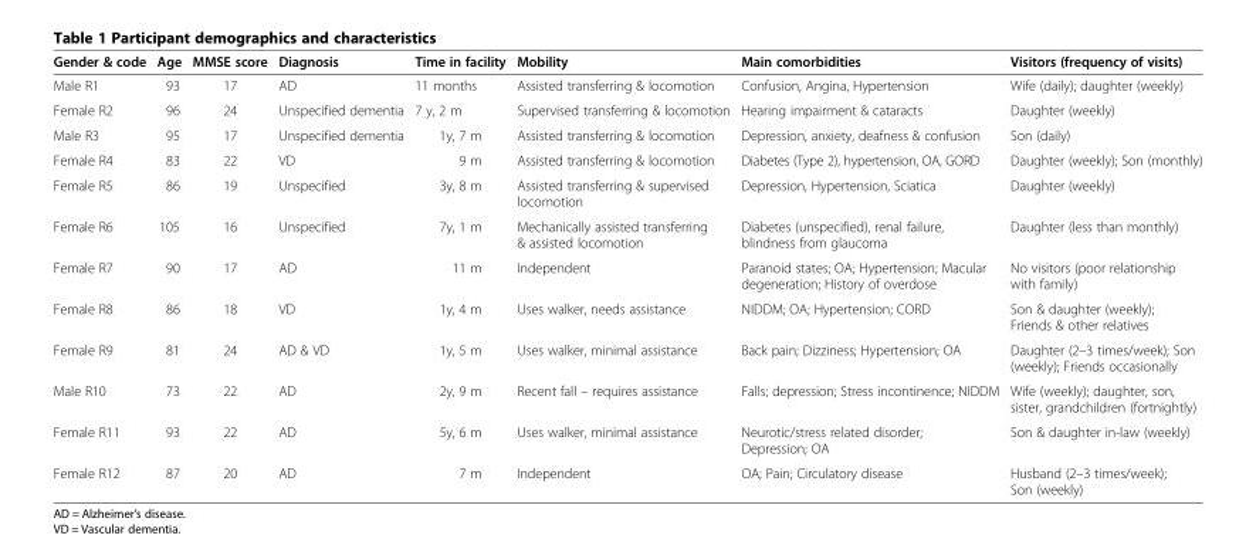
<table><thead><tr><td>Gender &amp; code</td><td>Age</td><td>MMSE score</td><td>Diagnosis</td><td>Time in facility</td><td>Mobility</td><td>Main comorbidities</td><td>Visitors (frequency of visits)</td></tr></thead><tbody><tr><td>Male R1</td><td>93</td><td>17</td><td>AD</td><td>11 months</td><td>Assisted transferring &amp; locomotion</td><td>Confusion, Angina, Hypertension</td><td>Wife (daily); daughter (weekly)</td></tr><tr><td>Female R2</td><td>96</td><td>24</td><td>Unspecified dementia</td><td>7 y, 2 m</td><td>Supervised transferring &amp; locomotion</td><td>Hearing impairment &amp; cataracts</td><td>Daughter (weekly)</td></tr><tr><td>Male R3</td><td>95</td><td>17</td><td>Unspecified dementia</td><td>1y, 7 m</td><td>Assisted transferring &amp; locomotion</td><td>Depression, anxiety, deafness &amp; confusion</td><td>Son (daily)</td></tr><tr><td>Female R4</td><td>83</td><td>22</td><td>VD</td><td>9 m</td><td>Assisted transferring &amp; locomotion</td><td>Diabetes (Type 2), hypertension, OA, GORD</td><td>Daughter (weekly); Son (monthly)</td></tr><tr><td>Female R5</td><td>86</td><td>19</td><td>Unspecified</td><td>3y, 8 m</td><td>Assisted transferring &amp; supervised locomotion</td><td>Depression, Hypertension, Sciatica</td><td>Daughter (weekly)</td></tr><tr><td>Female R6</td><td>105</td><td>16</td><td>Unspecified</td><td>7y, 1 m</td><td>Mechanically assisted transferring &amp; assisted locomotion</td><td>Diabetes (unspecified), renal failure, blindness from glaucoma</td><td>Daughter (less than monthly)</td></tr><tr><td>Female R7</td><td>90</td><td>17</td><td>AD</td><td>11 m</td><td>Independent</td><td>Paranoid states; OA; Hypertension; Macular degeneration; History of overdose</td><td>No visitors (poor relationship with family)</td></tr><tr><td>Female R8</td><td>86</td><td>18</td><td>VD</td><td>1y, 4 m</td><td>Uses walker, needs assistance</td><td>NIDDM; OA; Hypertension; CORD</td><td>Son &amp; daughter (weekly); Friends &amp; other relatives</td></tr><tr><td>Female R9</td><td>81</td><td>24</td><td>AD &amp; VD</td><td>1y, 5 m</td><td>Uses walker, minimal assistance</td><td>Back pain; Dizziness; Hypertension; OA</td><td>Daughter (2–3 times/week); Son (weekly); Friends occasionally</td></tr><tr><td>Male R10</td><td>73</td><td>22</td><td>AD</td><td>2y, 9 m</td><td>Recent fall – requires assistance</td><td>Falls; depression; Stress incontinence; NIDDM</td><td>Wife (weekly); daughter, son, sister, grandchildren (fortnightly)</td></tr><tr><td>Female R11</td><td>93</td><td>22</td><td>AD</td><td>5y, 6 m</td><td>Uses walker, minimal assistance</td><td>Neurotic/stress related disorder; Depression; OA</td><td>Son &amp; daughter in-law (weekly)</td></tr><tr><td>Female R12</td><td>87</td><td>20</td><td>AD</td><td>7 m</td><td>Independent</td><td>OA; Pain; Circulatory disease</td><td>Husband (2–3 times/week); Son (weekly)</td></tr></tbody></table>